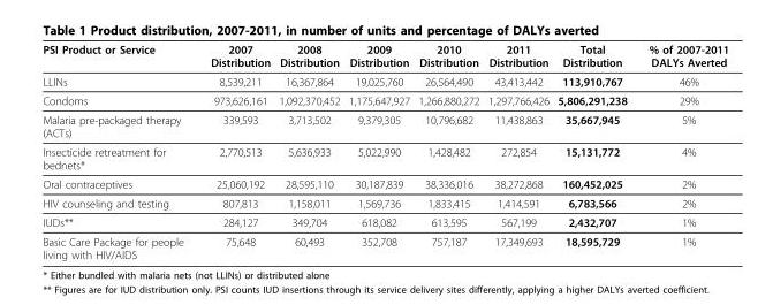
<table><thead><tr><td>PSI Product or Service</td><td>2007 Distribution</td><td>2008 Distribution</td><td>2009 Distribution</td><td>2010 Distribution</td><td>2011 Distribution</td><td>Total Distribution</td><td>% of 2007-2011 DALYs Averted</td></tr></thead><tbody><tr><td>LLINs</td><td>8,539,211</td><td>16,367,864</td><td>19,025,760</td><td>26,564,490</td><td>43,413,442</td><td>113,910,767</td><td>46%</td></tr><tr><td>Condoms</td><td>973,626,161</td><td>1,092,370,452</td><td>1,175,647,927</td><td>1,266,880,272</td><td>1,297,766,426</td><td>5,806,291,238</td><td>29%</td></tr><tr><td>Malaria pre-packaged therapy (ACTs)</td><td>339,593</td><td>3,713,502</td><td>9,379,305</td><td>10,796,682</td><td>11,438,863</td><td>35,667,945</td><td>5%</td></tr><tr><td>Insecticide retreatment for bednets*</td><td>2,770,513</td><td>5,636,933</td><td>5,022,990</td><td>1,428,482</td><td>272,854</td><td>15,131,772</td><td>4%</td></tr><tr><td>Oral contraceptives</td><td>25,060,192</td><td>28,595,110</td><td>30,187,839</td><td>38,336,016</td><td>38,272,868</td><td>160,452,025</td><td>2%</td></tr><tr><td>HIV counseling and testing</td><td>807,813</td><td>1,158,011</td><td>1,569,736</td><td>1,833,415</td><td>1,414,591</td><td>6,783,566</td><td>2%</td></tr><tr><td>IUDs**</td><td>284,127</td><td>349,704</td><td>618,082</td><td>613,595</td><td>567,199</td><td>2,432,707</td><td>1%</td></tr><tr><td>Basic Care Package for people living with HIV/AIDS</td><td>75,648</td><td>60,493</td><td>352,708</td><td>757,187</td><td>17,349,693</td><td>18,595,729</td><td>1%</td></tr></tbody></table>